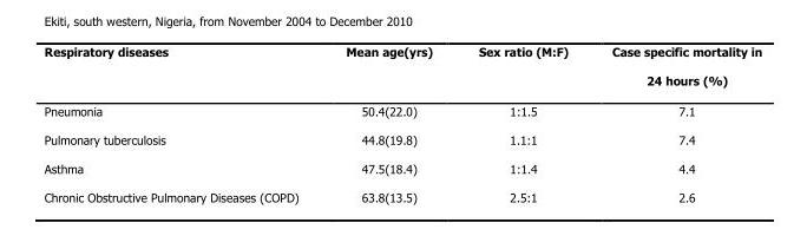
<table><thead><tr><td>Respiratory diseases</td><td>Mean age(yrs)</td><td>Sex ratio (M:F)</td><td>Case specific mortality in 24 hours (%)</td></tr></thead><tbody><tr><td>Pneumonia</td><td>50.4(22.0)</td><td>1:1.5</td><td>7.1</td></tr><tr><td>Pulmonary tuberculosis</td><td>44.8(19.8)</td><td>1.1:1</td><td>7.4</td></tr><tr><td>Asthma</td><td>47.5(18.4)</td><td>1:1.4</td><td>4.4</td></tr><tr><td>Chronic Obstructive Pulmonary Diseases (COPD)</td><td>63.8(13.5)</td><td>2.5:1</td><td>2.6</td></tr></tbody></table>